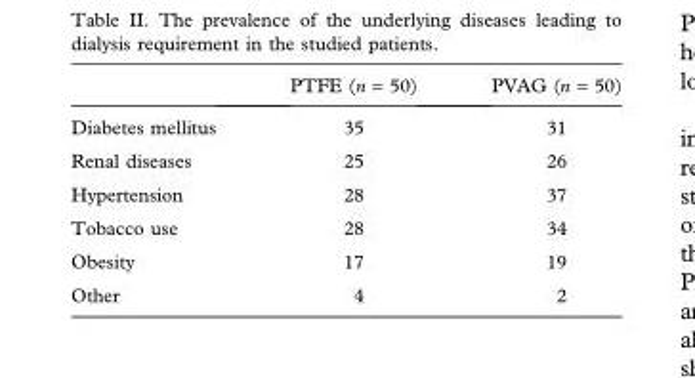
<table><thead><tr><td></td><td>PTFE (n = 50)</td><td>PVAG (n = 50)</td></tr></thead><tbody><tr><td>Diabetes mellitus</td><td>35</td><td>31</td></tr><tr><td>Renal diseases</td><td>25</td><td>26</td></tr><tr><td>Hypertension</td><td>28</td><td>37</td></tr><tr><td>Tobacco use</td><td>28</td><td>34</td></tr><tr><td>Obesity</td><td>17</td><td>19</td></tr><tr><td>Other</td><td>4</td><td>2</td></tr></tbody></table>